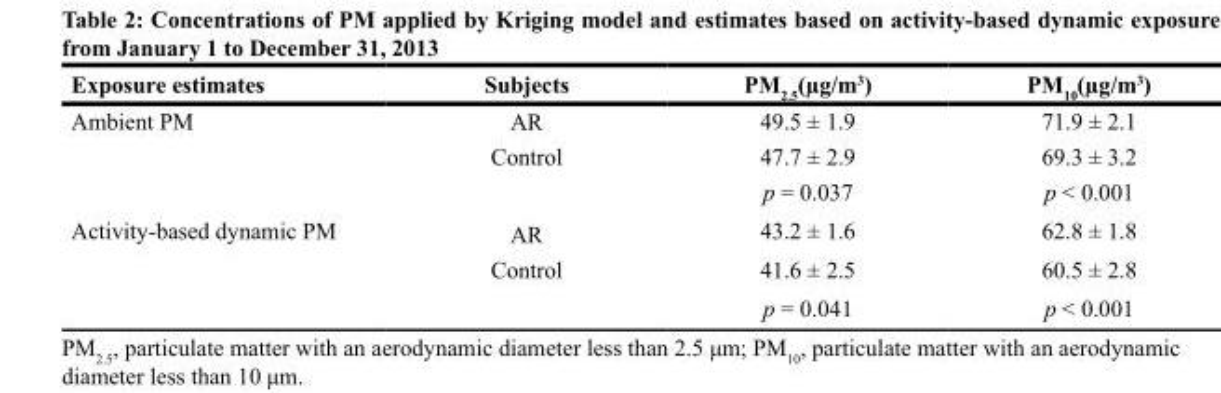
<table><thead><tr><td>Exposure estimates</td><td>Subjects</td><td>PM<sub>2.5</sub>(µg/m<sup>3</sup>)</td><td>PM<sub>10</sub>(µg/m<sup>3</sup>)</td></tr></thead><tbody><tr><td rowspan="3">Ambient PM</td><td>AR</td><td>49.5 ± 1.9</td><td>71.9 ± 2.1</td></tr><tr><td>Control</td><td>47.7 ± 2.9</td><td>69.3 ± 3.2</td></tr><tr><td></td><td>p = 0.037</td><td>p &lt; 0.001</td></tr><tr><td rowspan="3">Activity-based dynamic PM</td><td>AR</td><td>43.2 ± 1.6</td><td>62.8 ± 1.8</td></tr><tr><td>Control</td><td>41.6 ± 2.5</td><td>60.5 ± 2.8</td></tr><tr><td></td><td>p = 0.041</td><td>p &lt; 0.001</td></tr></tbody></table>